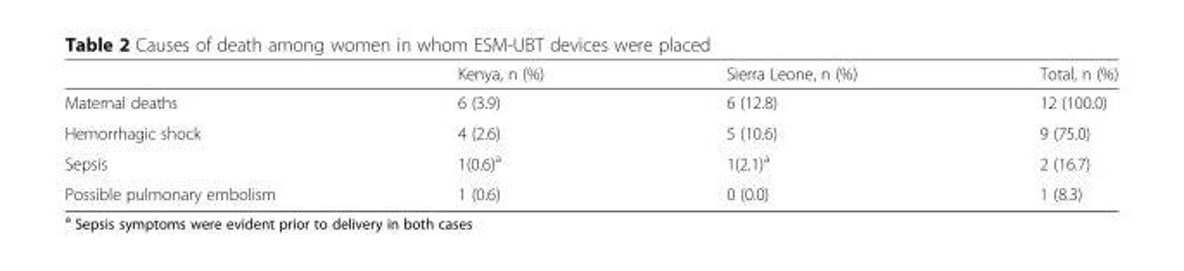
<table><thead><tr><td></td><td>Kenya, n (%)</td><td>Sierra Leone, n (%)</td><td>Total, n (%)</td></tr></thead><tbody><tr><td>Maternal deaths</td><td>6 (3.9)</td><td>6 (12.8)</td><td>12 (100.0)</td></tr><tr><td>Hemorrhagic shock</td><td>4 (2.6)</td><td>5 (10.6)</td><td>9 (75.0)</td></tr><tr><td>Sepsis</td><td>1(0.6)<sup>a</sup></td><td>1(2.1)<sup>a</sup></td><td>2 (16.7)</td></tr><tr><td>Possible pulmonary embolism</td><td>1 (0.6)</td><td>0 (0.0)</td><td>1 (8.3)</td></tr></tbody></table>